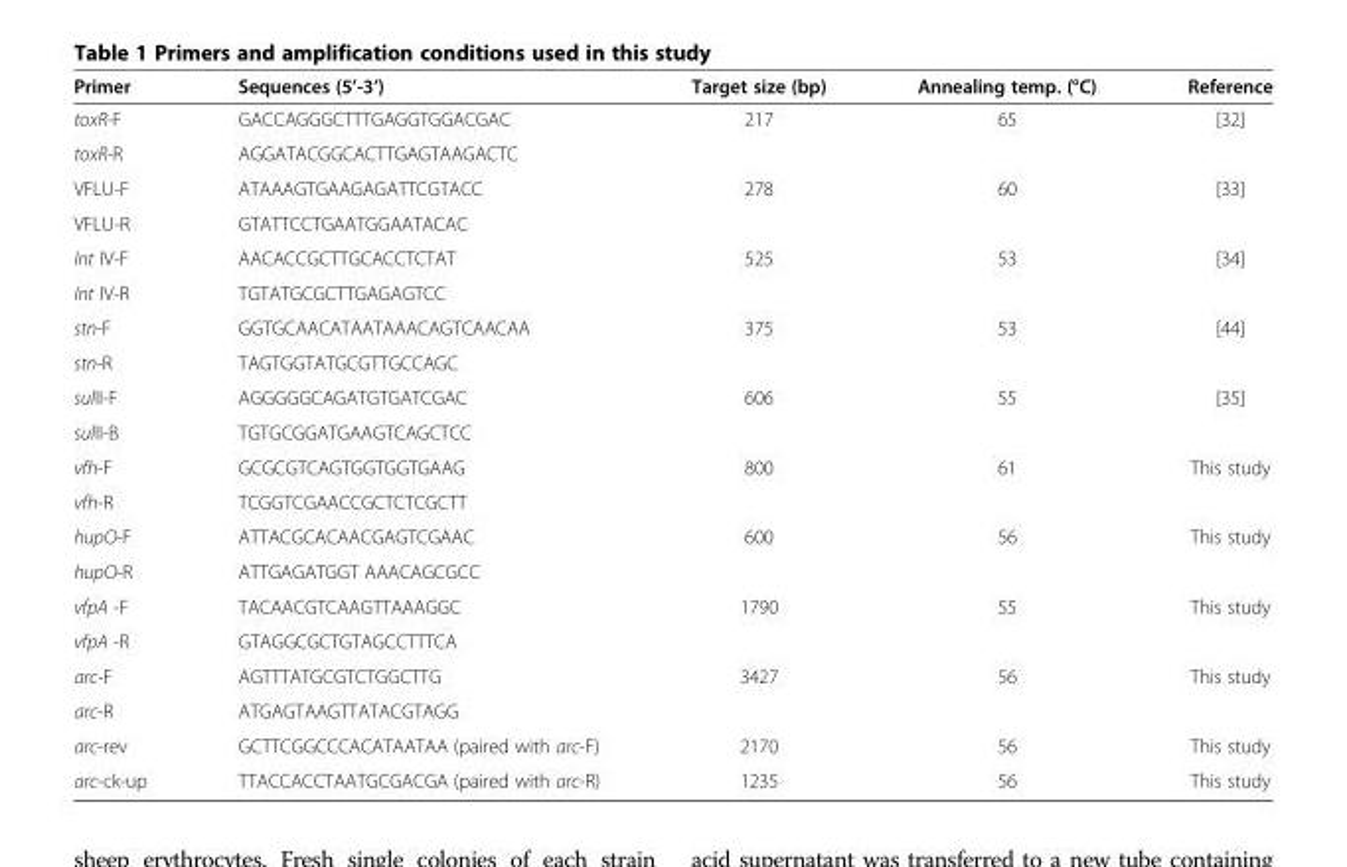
<table><thead><tr><td>Primer</td><td>Sequences (5’-3’)</td><td>Target size (bp)</td><td>Annealing temp. (°C)</td><td>Reference</td></tr></thead><tbody><tr><td>toxR-F</td><td>GACCAGGGCTTTGAGGTGGACGAC</td><td>217</td><td>65</td><td>[32]</td></tr><tr><td>toxR-R</td><td>AGGATACGGCACTTGAGTAAGACTC</td><td></td><td></td><td></td></tr><tr><td>VFLU-F</td><td>ATAAAGTGAAGAGATTCGTACC</td><td>278</td><td>60</td><td>[33]</td></tr><tr><td>VFLU-R</td><td>GTATTCCTGAATGGAATACAC</td><td></td><td></td><td></td></tr><tr><td>Int IV-F</td><td>AACACCGCTTGCACCTCTAT</td><td>525</td><td>53</td><td>[34]</td></tr><tr><td>Int IV-R</td><td>TGTATGCGCTTGAGAGTCC</td><td></td><td></td><td></td></tr><tr><td>stn-F</td><td>GGTGCAACATAATAAACAGTCAACAA</td><td>375</td><td>53</td><td>[44]</td></tr><tr><td>stn-R</td><td>TAGTGGTATGCGTTGCCAGC</td><td></td><td></td><td></td></tr><tr><td>sulII-F</td><td>AGGGGGCAGATGTGATCGAC</td><td>606</td><td>55</td><td>[35]</td></tr><tr><td>sulII-B</td><td>TGTGCGGATGAAGTCAGCTCC</td><td></td><td></td><td></td></tr><tr><td>vfh-F</td><td>GCGCGTCAGTGGTGGTGAAG</td><td>800</td><td>61</td><td>This study</td></tr><tr><td>vfh-R</td><td>TCGGTCGAACCGCTCTCGCTT</td><td></td><td></td><td></td></tr><tr><td>hupO-F</td><td>ATTACGCACAACGAGTCGAAC</td><td>600</td><td>56</td><td>This study</td></tr><tr><td>hupO-R</td><td>ATTGAGATGGT AAACAGCGCC</td><td></td><td></td><td></td></tr><tr><td>vfpA -F</td><td>TACAACGTCAAGTTAAAGGC</td><td>1790</td><td>55</td><td>This study</td></tr><tr><td>vfpA -R</td><td>GTAGGCGCTGTAGCCTTTCA</td><td></td><td></td><td></td></tr><tr><td>arc-F</td><td>AGTTTATGCGTCTGGCTTG</td><td>3427</td><td>56</td><td>This study</td></tr><tr><td>arc-R</td><td>ATGAGTAAGTTATACGTAGG</td><td></td><td></td><td></td></tr><tr><td>arc-rev</td><td>GCTTCGGCCCACATAATAA (paired with arc-F)</td><td>2170</td><td>56</td><td>This study</td></tr><tr><td>arc-ck-up</td><td>TTACCACCTAATGCGACGA (paired with arc-R)</td><td>1235</td><td>56</td><td>This study</td></tr></tbody></table>